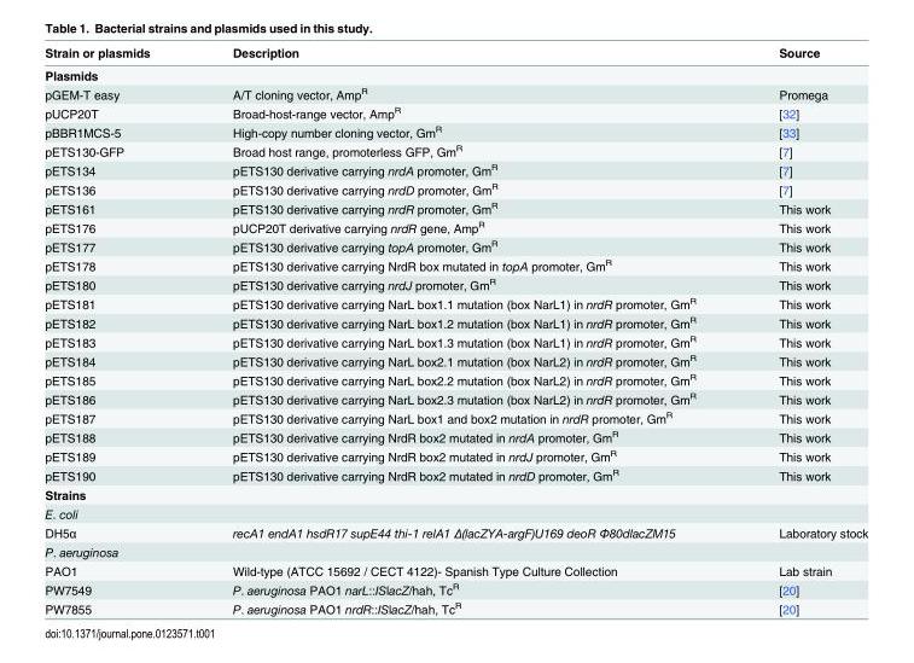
<table><thead><tr><td>Strain or plasmids</td><td>Description</td><td>Source</td></tr></thead><tbody><tr><td colspan="3">Plasmids</td></tr><tr><td>pGEM-T easy</td><td>A/T cloning vector, Amp<sup>R</sup></td><td>Promega</td></tr><tr><td>pUCP20T</td><td>Broad-host-range vector, Amp<sup>R</sup></td><td>[32]</td></tr><tr><td>pBBR1MCS-5</td><td>High-copy number cloning vector, Gm<sup>R</sup></td><td>[33]</td></tr><tr><td>pETS130-GFP</td><td>Broad host range, promoterless GFP, Gm<sup>R</sup></td><td>[7]</td></tr><tr><td>pETS134</td><td>pETS130 derivative carrying nrdA promoter, Gm<sup>R</sup></td><td>[7]</td></tr><tr><td>pETS136</td><td>pETS130 derivative carrying nrdD promoter, Gm<sup>R</sup></td><td>[7]</td></tr><tr><td>pETS161</td><td>pETS130 derivative carrying nrdR promoter, Gm<sup>R</sup></td><td>This work</td></tr><tr><td>pETS176</td><td>pUCP20T derivative carrying nrdR gene, Amp<sup>R</sup></td><td>This work</td></tr><tr><td>pETS177</td><td>pETS130 derivative carrying topA promoter, Gm<sup>R</sup></td><td>This work</td></tr><tr><td>pETS178</td><td>pETS130 derivative carrying NrdR box mutated in topA promoter, Gm<sup>R</sup></td><td>This work</td></tr><tr><td>pETS180</td><td>pETS130 derivative carrying nrdJ promoter, Gm<sup>R</sup></td><td>This work</td></tr><tr><td>pETS181</td><td>pETS130 derivative carrying NarL box1.1 mutation (box NarL1) in nrdR promoter, Gm<sup>R</sup></td><td>This work</td></tr><tr><td>pETS182</td><td>pETS130 derivative carrying NarL box1.2 mutation (box NarL1) in nrdR promoter, Gm<sup>R</sup></td><td>This work</td></tr><tr><td>pETS183</td><td>pETS130 derivative carrying NarL box1.3 mutation (box NarL1) in nrdR promoter, Gm<sup>R</sup></td><td>This work</td></tr><tr><td>pETS184</td><td>pETS130 derivative carrying NarL box2.1 mutation (box NarL2) in nrdR promoter, Gm<sup>R</sup></td><td>This work</td></tr><tr><td>pETS185</td><td>pETS130 derivative carrying NarL box2.2 mutation (box NarL2) in nrdR promoter, Gm<sup>R</sup></td><td>This work</td></tr><tr><td>pETS186</td><td>pETS130 derivative carrying NarL box2.3 mutation (box NarL2) in nrdR promoter, Gm<sup>R</sup></td><td>This work</td></tr><tr><td>pETS187</td><td>pETS130 derivative carrying NarL box1 and box2 mutation in nrdR promoter, Gm<sup>R</sup></td><td>This work</td></tr><tr><td>pETS188</td><td>pETS130 derivative carrying NrdR box2 mutated in nrdA promoter, Gm<sup>R</sup></td><td>This work</td></tr><tr><td>pETS189</td><td>pETS130 derivative carrying NrdR box2 mutated in nrdJ promoter, Gm<sup>R</sup></td><td>This work</td></tr><tr><td>pETS190</td><td>pETS130 derivative carrying NrdR box2 mutated in nrdD promoter, Gm<sup>R</sup></td><td>This work</td></tr><tr><td colspan="3">Strains</td></tr><tr><td colspan="3">E. coli</td></tr><tr><td>DH5α</td><td>recA1 endA1 hsdR17 supE44 thi-1 relA1 Δ(lacZYA-argF)U169 deoR Φ80dlacZM15</td><td>Laboratory stock</td></tr><tr><td colspan="3">P. aeruginosa</td></tr><tr><td>PAO1</td><td>Wild-type (ATCC 15692 / CECT 4122)- Spanish Type Culture Collection</td><td>Lab strain</td></tr><tr><td>PW7549</td><td>P. aeruginosa PAO1 narL::ISlacZ/hah, Tc<sup>R</sup></td><td>[20]</td></tr><tr><td>PW7855</td><td>P. aeruginosa PAO1 nrdR::ISlacZ/hah, Tc<sup>R</sup></td><td>[20]</td></tr></tbody></table>